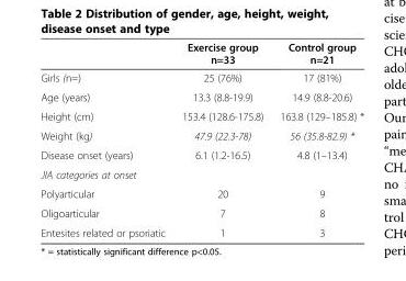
<table><thead><tr><td></td><td>Exercise group n=33</td><td>Control group n=21</td></tr></thead><tbody><tr><td>Girls (n=)</td><td>25 (76%)</td><td>17 (81%)</td></tr><tr><td>Age (years)</td><td>13.3 (8.8-19.9)</td><td>14.9 (8.8-20.6)</td></tr><tr><td>Height (cm)</td><td>153.4 (128.6-175.8)</td><td>163.8 (129–185.8) *</td></tr><tr><td>Weight (kg)</td><td>47.9 (22.3-78)</td><td>56 (35.8-82.9) *</td></tr><tr><td>Disease onset (years)</td><td>6.1 (1.2-16.5)</td><td>4.8 (1–13.4)</td></tr><tr><td colspan="3">JIA categories at onset</td></tr><tr><td>Polyarticular</td><td>20</td><td>9</td></tr><tr><td>Oligoarticular</td><td>7</td><td>8</td></tr><tr><td>Entesites related or psoriatic</td><td>1</td><td>3</td></tr></tbody></table>